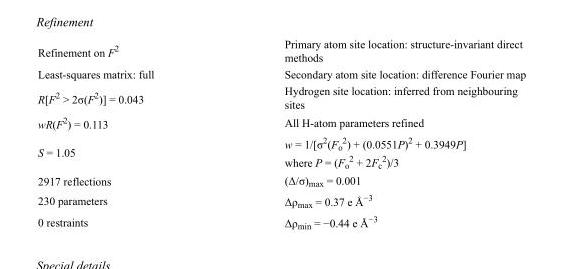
<table><tbody><tr><td>Refinement on F<sup>2</sup></td><td>Primary atom site location: structure-invariant direct methods</td></tr><tr><td>Least-squares matrix: full</td><td>Secondary atom site location: difference Fourier map</td></tr><tr><td>R[F<sup>2</sup> &gt; 2σ(F<sup>2</sup>)] = 0.043</td><td>Hydrogen site location: inferred from neighbouring sites</td></tr><tr><td>wR(F<sup>2</sup>) = 0.113</td><td>All H-atom parameters refined</td></tr><tr><td>S = 1.05</td><td>w = 1/[σ<sup>2</sup>(F<sub>o</sub> <sup>2</sup>) + (0.0551P)<sup>2</sup> + 0.3949P] where P = (F<sub>o</sub> <sup>2</sup> + 2F<sub>c</sub> <sup>2</sup>)/3</td></tr><tr><td>2917 reflections</td><td>(Δ/σ)<sub>max</sub> = 0.001</td></tr><tr><td>230 parameters</td><td>Δρ<sub>max</sub> = 0.37 e Å<sup>−3</sup></td></tr><tr><td>0 restraints</td><td>Δρ<sub>min</sub> = −0.44 e Å<sup>−3</sup></td></tr></tbody></table>